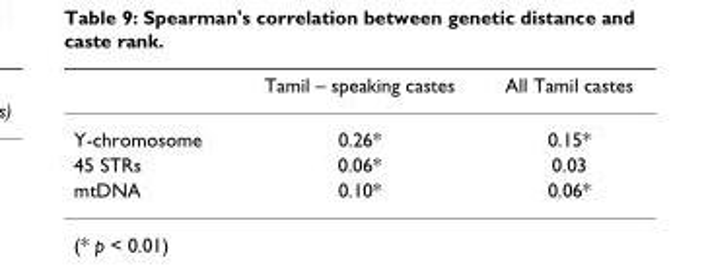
<table><thead><tr><td></td><td>Tamil – speaking castes</td><td>All Tamil castes</td></tr></thead><tbody><tr><td>Y-chromosome</td><td>0.26*</td><td>0.15*</td></tr><tr><td>45 STRs</td><td>0.06*</td><td>0.03</td></tr><tr><td>mtDNA</td><td>0.10*</td><td>0.06*</td></tr></tbody></table>